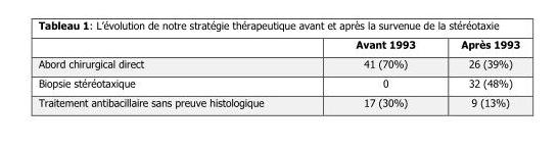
<table><thead><tr><td></td><td>Avant 1993</td><td>Après 1993</td></tr></thead><tbody><tr><td>Abord chirurgical direct</td><td>41 (70%)</td><td>26 (39%)</td></tr><tr><td>Biopsie stéréotaxique</td><td>0</td><td>32 (48%)</td></tr><tr><td>Traitement antibacillaire sans preuve histologique</td><td>17 (30%)</td><td>9 (13%)</td></tr></tbody></table>